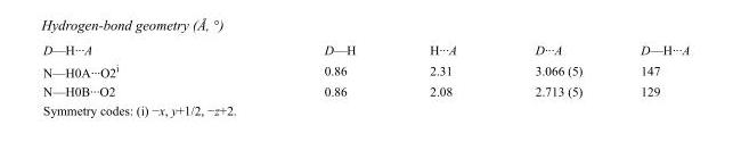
<table><tbody><tr><td>D—H···A</td><td>D—H</td><td>H···A</td><td>D···A</td><td>D—H···A</td></tr><tr><td>N—H0A···O2<sup>i</sup></td><td>0.86</td><td>2.31</td><td>3.066 (5)</td><td>147</td></tr><tr><td>N—H0B···O2</td><td>0.86</td><td>2.08</td><td>2.713 (5)</td><td>129</td></tr></tbody></table>